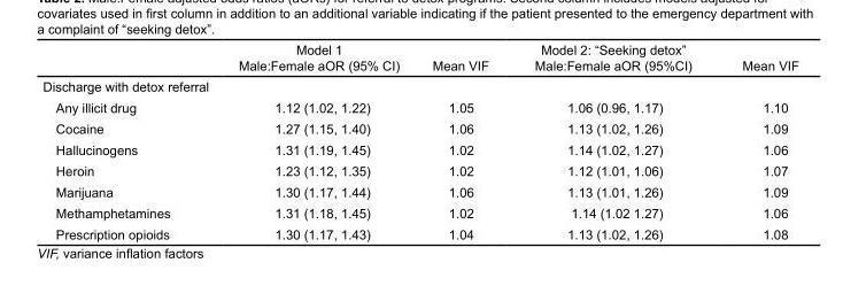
<table><thead><tr><td></td><td>Model 1 Male:Female aOR (95% CI)</td><td>Mean VIF</td><td>Model 2: “Seeking detox” Male:Female aOR (95%CI)</td><td>Mean VIF</td></tr></thead><tbody><tr><td colspan="5">Discharge with detox referral</td></tr><tr><td>Any illicit drug</td><td>1.12 (1.02, 1.22)</td><td>1.05</td><td>1.06 (0.96, 1.17)</td><td>1.10</td></tr><tr><td>Cocaine</td><td>1.27 (1.15, 1.40)</td><td>1.06</td><td>1.13 (1.02, 1.26)</td><td>1.09</td></tr><tr><td>Hallucinogens</td><td>1.31 (1.19, 1.45)</td><td>1.02</td><td>1.14 (1.02, 1.27)</td><td>1.06</td></tr><tr><td>Heroin</td><td>1.23 (1.12, 1.35)</td><td>1.02</td><td>1.12 (1.01, 1.06)</td><td>1.07</td></tr><tr><td>Marijuana</td><td>1.30 (1.17, 1.44)</td><td>1.06</td><td>1.13 (1.01, 1.26)</td><td>1.09</td></tr><tr><td>Methamphetamines</td><td>1.31 (1.18, 1.45)</td><td>1.02</td><td>1.14 (1.02 1.27)</td><td>1.06</td></tr><tr><td>Prescription opioids</td><td>1.30 (1.17, 1.43)</td><td>1.04</td><td>1.13 (1.02, 1.26)</td><td>1.08</td></tr></tbody></table>